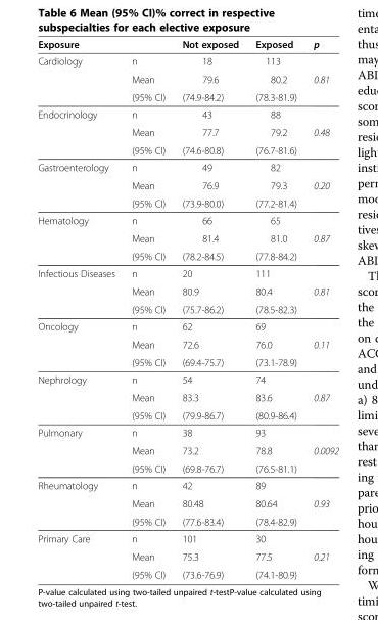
<table><thead><tr><td>Exposure</td><td></td><td>Not exposed</td><td>Exposed</td><td>p</td></tr></thead><tbody><tr><td rowspan="3">Cardiology</td><td>n</td><td>18</td><td>113</td><td></td></tr><tr><td>Mean</td><td>79.6</td><td>80.2</td><td>0.81</td></tr><tr><td>(95% CI)</td><td>(74.9-84.2)</td><td>(78.3-81.9)</td><td></td></tr><tr><td rowspan="3">Endocrinology</td><td>n</td><td>43</td><td>88</td><td></td></tr><tr><td>Mean</td><td>77.7</td><td>79.2</td><td>0.48</td></tr><tr><td>(95% CI)</td><td>(74.6-80.8)</td><td>(76.7-81.6)</td><td></td></tr><tr><td rowspan="3">Gastroenterology</td><td>n</td><td>49</td><td>82</td><td></td></tr><tr><td>Mean</td><td>76.9</td><td>79.3</td><td>0.20</td></tr><tr><td>(95% CI)</td><td>(73.9-80.0)</td><td>(77.2-81.4)</td><td></td></tr><tr><td rowspan="3">Hematology</td><td>n</td><td>66</td><td>65</td><td></td></tr><tr><td>Mean</td><td>81.4</td><td>81.0</td><td>0.87</td></tr><tr><td>(95% CI)</td><td>(78.2-84.5)</td><td>(77.8-84.2)</td><td></td></tr><tr><td rowspan="3">Infectious Diseases</td><td>n</td><td>20</td><td>111</td><td></td></tr><tr><td>Mean</td><td>80.9</td><td>80.4</td><td>0.81</td></tr><tr><td>(95% CI)</td><td>(75.7-86.2)</td><td>(78.5-82.3)</td><td></td></tr><tr><td rowspan="3">Oncology</td><td>n</td><td>62</td><td>69</td><td></td></tr><tr><td>Mean</td><td>72.6</td><td>76.0</td><td>0.11</td></tr><tr><td>(95% CI)</td><td>(69.4-75.7)</td><td>(73.1-78.9)</td><td></td></tr><tr><td rowspan="3">Nephrology</td><td>n</td><td>54</td><td>74</td><td></td></tr><tr><td>Mean</td><td>83.3</td><td>83.6</td><td>0.87</td></tr><tr><td>(95% CI)</td><td>(79.9-86.7)</td><td>(80.9-86.4)</td><td></td></tr><tr><td rowspan="3">Pulmonary</td><td>n</td><td>38</td><td>93</td><td></td></tr><tr><td>Mean</td><td>73.2</td><td>78.8</td><td>0.0092</td></tr><tr><td>(95% CI)</td><td>(69.8-76.7)</td><td>(76.5-81.1)</td><td></td></tr><tr><td rowspan="3">Rheumatology</td><td>n</td><td>42</td><td>89</td><td></td></tr><tr><td>Mean</td><td>80.48</td><td>80.64</td><td>0.93</td></tr><tr><td>(95% CI)</td><td>(77.6-83.4)</td><td>(78.4-82.9)</td><td></td></tr><tr><td rowspan="3">Primary Care</td><td>n</td><td>101</td><td>30</td><td></td></tr><tr><td>Mean</td><td>75.3</td><td>77.5</td><td>0.21</td></tr><tr><td>(95% CI)</td><td>(73.6-76.9)</td><td>(74.1-80.9)</td><td></td></tr></tbody></table>